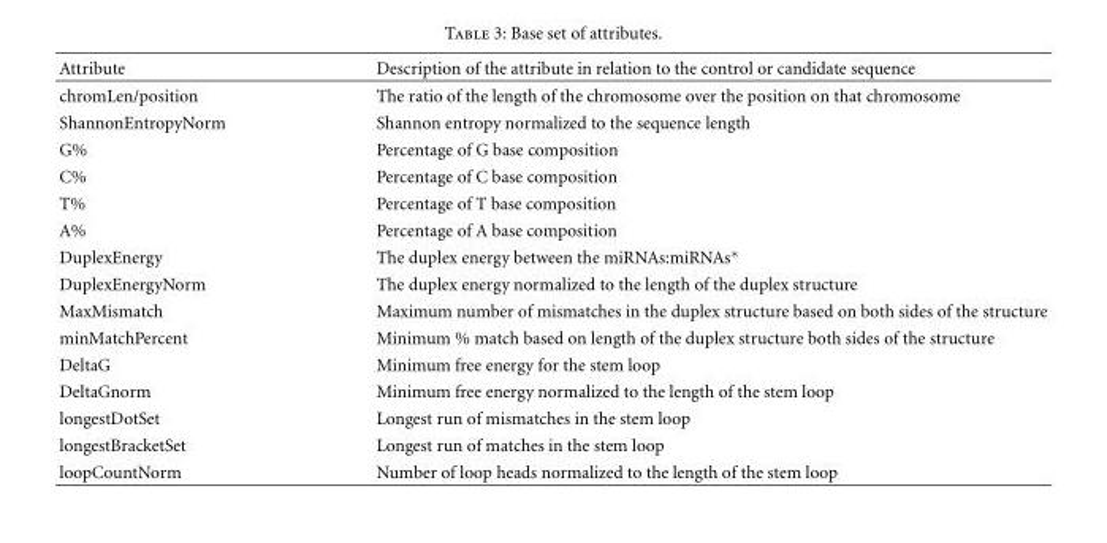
<table><thead><tr><td>Attribute</td><td>Description of the attribute in relation to the control or candidate sequence</td></tr></thead><tbody><tr><td>chromLen/position</td><td>The ratio of the length of the chromosome over the position on that chromosome</td></tr><tr><td>ShannonEntropyNorm</td><td>Shannon entropy normalized to the sequence length</td></tr><tr><td>G%</td><td>Percentage of G base composition</td></tr><tr><td>C%</td><td>Percentage of C base composition</td></tr><tr><td>T%</td><td>Percentage of T base composition</td></tr><tr><td>A%</td><td>Percentage of A base composition</td></tr><tr><td>DuplexEnergy</td><td>The duplex energy between the miRNAs:miRNAs∗</td></tr><tr><td>DuplexEnergyNorm</td><td>The duplex energy normalized to the length of the duplex structure</td></tr><tr><td>MaxMismatch</td><td>Maximum number of mismatches in the duplex structure based on both sides of the structure</td></tr><tr><td>minMatchPercent</td><td>Minimum % match based on length of the duplex structure both sides of the structure</td></tr><tr><td>DeltaG</td><td>Minimum free energy for the stem loop</td></tr><tr><td>DeltaGnorm</td><td>Minimum free energy normalized to the length of the stem loop</td></tr><tr><td>longestDotSet</td><td>Longest run of mismatches in the stem loop</td></tr><tr><td>longestBracketSet</td><td>Longest run of matches in the stem loop</td></tr><tr><td>loopCountNorm</td><td>Number of loop heads normalized to the length of the stem loop</td></tr></tbody></table>